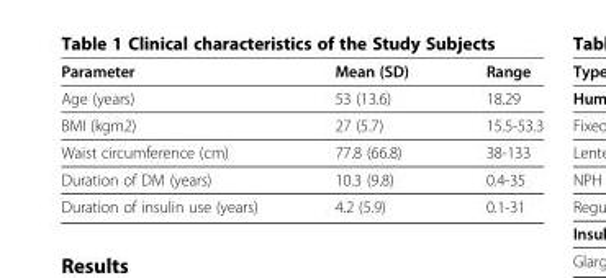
<table><thead><tr><td>Parameter</td><td>Mean (SD)</td><td>Range</td></tr></thead><tbody><tr><td>Age (years)</td><td>53 (13.6)</td><td>18.29</td></tr><tr><td>BMI (kgm2)</td><td>27 (5.7)</td><td>15.5-53.3</td></tr><tr><td>Waist circumference (cm)</td><td>77.8 (66.8)</td><td>38-133</td></tr><tr><td>Duration of DM (years)</td><td>10.3 (9.8)</td><td>0.4-35</td></tr><tr><td>Duration of insulin use (years)</td><td>4.2 (5.9)</td><td>0.1-31</td></tr></tbody></table>